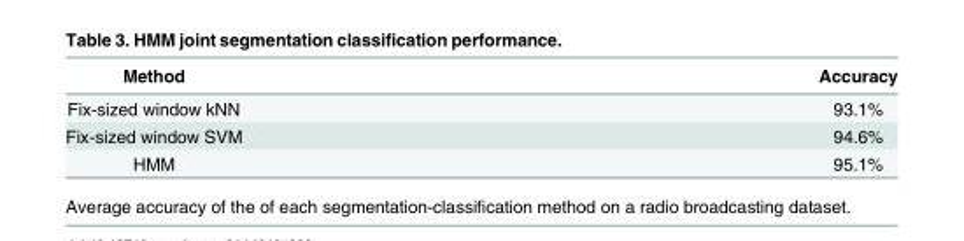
<table><thead><tr><td>Method</td><td>Accuracy</td></tr></thead><tbody><tr><td>Fix-sized window kNN</td><td>93.1%</td></tr><tr><td>Fix-sized window SVM</td><td>94.6%</td></tr><tr><td>HMM</td><td>95.1%</td></tr></tbody></table>